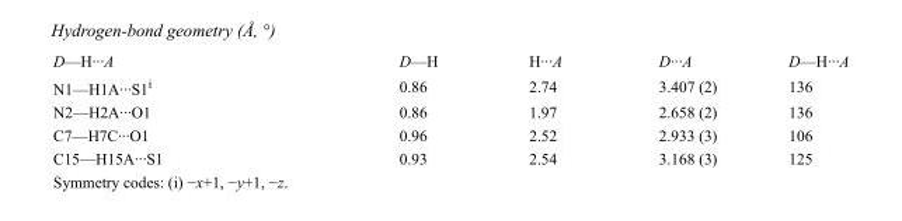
<table><tbody><tr><td>D—H···A</td><td>D—H</td><td>H···A</td><td>D···A</td><td>D—H···A</td></tr><tr><td>N1—H1A···S1<sup>i</sup></td><td>0.86</td><td>2.74</td><td>3.407 (2)</td><td>136</td></tr><tr><td>N2—H2A···O1</td><td>0.86</td><td>1.97</td><td>2.658 (2)</td><td>136</td></tr><tr><td>C7—H7C···O1</td><td>0.96</td><td>2.52</td><td>2.933 (3)</td><td>106</td></tr><tr><td>C15—H15A···S1</td><td>0.93</td><td>2.54</td><td>3.168 (3)</td><td>125</td></tr></tbody></table>